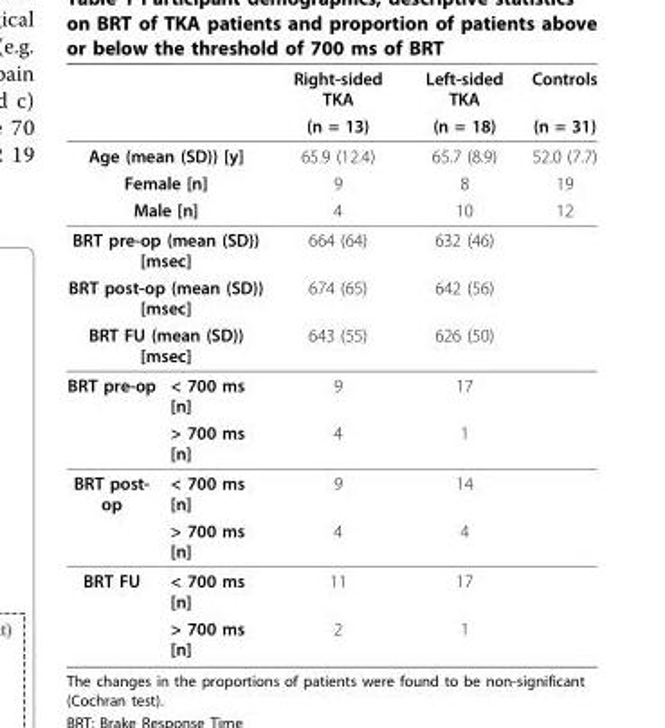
<table><thead><tr><td rowspan="2"></td><td rowspan="2"></td><td rowspan="2">Right-sided TKA (n = 13)</td><td rowspan="2">Left-sided TKA (n = 18)</td><td rowspan="2">Controls (n = 31)</td></tr><tr></tr></thead><tbody><tr><td colspan="2">Age (mean (SD)) [y]</td><td>65.9 (12.4)</td><td>65.7 (8.9)</td><td>52.0 (7.7)</td></tr><tr><td colspan="2">Female [n]</td><td>9</td><td>8</td><td>19</td></tr><tr><td colspan="2">Male [n]</td><td>4</td><td>10</td><td>12</td></tr><tr><td colspan="2">BRT pre-op (mean (SD)) [msec]</td><td>664 (64)</td><td>632 (46)</td><td></td></tr><tr><td colspan="2">BRT post-op (mean (SD)) [msec]</td><td>674 (65)</td><td>642 (56)</td><td></td></tr><tr><td colspan="2">BRT FU (mean (SD)) [msec]</td><td>643 (55)</td><td>626 (50)</td><td></td></tr><tr><td rowspan="2">BRT pre-op</td><td>&lt; 700 ms [n]</td><td>9</td><td>17</td><td></td></tr><tr><td>&gt; 700 ms [n]</td><td>4</td><td>1</td><td></td></tr><tr><td rowspan="2">BRT post- op</td><td>&lt; 700 ms [n]</td><td>9</td><td>14</td><td></td></tr><tr><td>&gt; 700 ms [n]</td><td>4</td><td>4</td><td></td></tr><tr><td rowspan="2">BRT FU</td><td>&lt; 700 ms [n]</td><td>11</td><td>17</td><td></td></tr><tr><td>&gt; 700 ms [n]</td><td>2</td><td>1</td><td></td></tr></tbody></table>